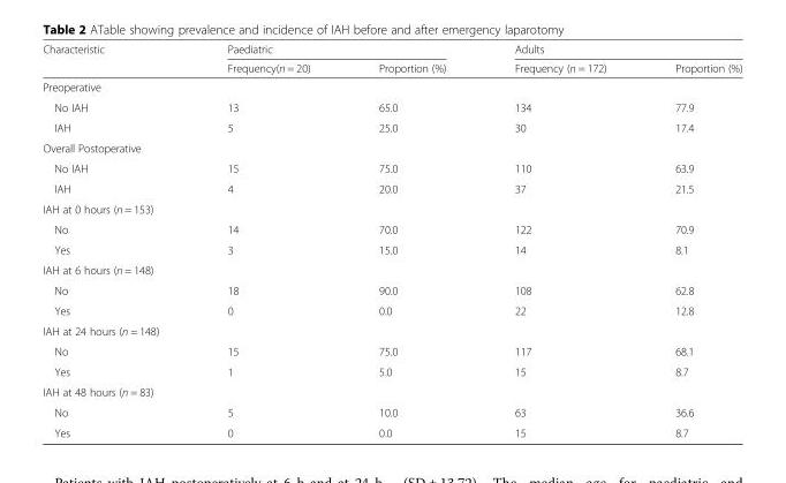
<table><thead><tr><td rowspan="2">Characteristic</td><td colspan="2">Paediatric</td><td colspan="2">Adults</td></tr><tr><td>Frequency(n = 20)</td><td>Proportion (%)</td><td>Frequency (n = 172)</td><td>Proportion (%)</td></tr></thead><tbody><tr><td colspan="5">Preoperative</td></tr><tr><td>No IAH</td><td>13</td><td>65.0</td><td>134</td><td>77.9</td></tr><tr><td>IAH</td><td>5</td><td>25.0</td><td>30</td><td>17.4</td></tr><tr><td colspan="5">Overall Postoperative</td></tr><tr><td>No IAH</td><td>15</td><td>75.0</td><td>110</td><td>63.9</td></tr><tr><td>IAH</td><td>4</td><td>20.0</td><td>37</td><td>21.5</td></tr><tr><td colspan="5">IAH at 0 hours (n = 153)</td></tr><tr><td>No</td><td>14</td><td>70.0</td><td>122</td><td>70.9</td></tr><tr><td>Yes</td><td>3</td><td>15.0</td><td>14</td><td>8.1</td></tr><tr><td colspan="5">IAH at 6 hours (n = 148)</td></tr><tr><td>No</td><td>18</td><td>90.0</td><td>108</td><td>62.8</td></tr><tr><td>Yes</td><td>0</td><td>0.0</td><td>22</td><td>12.8</td></tr><tr><td colspan="5">IAH at 24 hours (n = 148)</td></tr><tr><td>No</td><td>15</td><td>75.0</td><td>117</td><td>68.1</td></tr><tr><td>Yes</td><td>1</td><td>5.0</td><td>15</td><td>8.7</td></tr><tr><td colspan="5">IAH at 48 hours (n = 83)</td></tr><tr><td>No</td><td>5</td><td>10.0</td><td>63</td><td>36.6</td></tr><tr><td>Yes</td><td>0</td><td>0.0</td><td>15</td><td>8.7</td></tr></tbody></table>